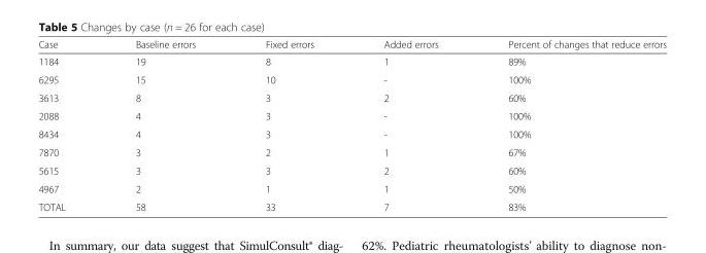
<table><thead><tr><td>Case</td><td>Baseline errors</td><td>Fixed errors</td><td>Added errors</td><td>Percent of changes that reduce errors</td></tr></thead><tbody><tr><td>1184</td><td>19</td><td>8</td><td>1</td><td>89%</td></tr><tr><td>6295</td><td>15</td><td>10</td><td>-</td><td>100%</td></tr><tr><td>3613</td><td>8</td><td>3</td><td>2</td><td>60%</td></tr><tr><td>2088</td><td>4</td><td>3</td><td>-</td><td>100%</td></tr><tr><td>8434</td><td>4</td><td>3</td><td>-</td><td>100%</td></tr><tr><td>7870</td><td>3</td><td>2</td><td>1</td><td>67%</td></tr><tr><td>5615</td><td>3</td><td>3</td><td>2</td><td>60%</td></tr><tr><td>4967</td><td>2</td><td>1</td><td>1</td><td>50%</td></tr><tr><td>TOTAL</td><td>58</td><td>33</td><td>7</td><td>83%</td></tr></tbody></table>